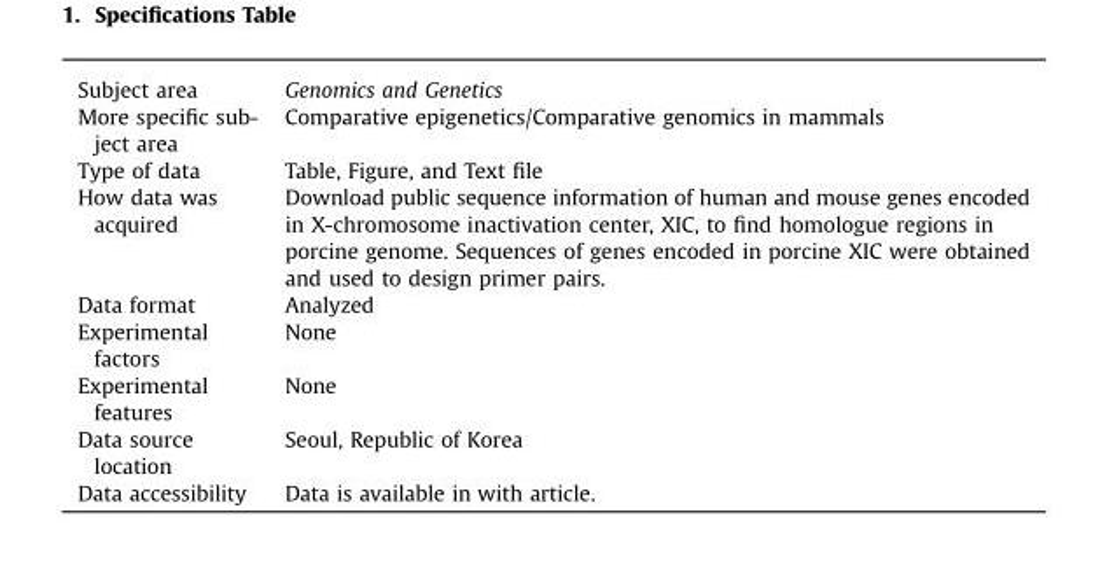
<table><tbody><tr><td>Subject area</td><td>Genomics and Genetics</td></tr><tr><td>More specific sub- ject area</td><td>Comparative epigenetics/Comparative genomics in mammals</td></tr><tr><td>Type of data</td><td>Table, Figure, and Text file</td></tr><tr><td>How data was acquired</td><td>Download public sequence information of human and mouse genes encoded in X-chromosome inactivation center, XIC, to find homologue regions in porcine genome. Sequences of genes encoded in porcine XIC were obtained and used to design primer pairs.</td></tr><tr><td>Data format</td><td>Analyzed</td></tr><tr><td>Experimental factors</td><td>None</td></tr><tr><td>Experimental features</td><td>None</td></tr><tr><td>Data source location</td><td>Seoul, Republic of Korea</td></tr><tr><td>Data accessibility</td><td>Data is available in with article.</td></tr></tbody></table>